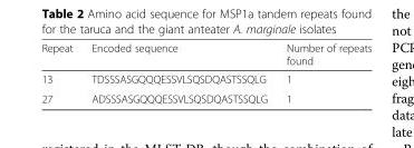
<table><thead><tr><td>Repeat</td><td>Encoded sequence</td><td>Number of repeats found</td></tr></thead><tbody><tr><td>13</td><td>TDSSSASGQQQESSVLSQSDQASTSSQLG</td><td>1</td></tr><tr><td>27</td><td>ADSSSASGQQQESSVLSQSDQASTSSQLG</td><td>1</td></tr></tbody></table>